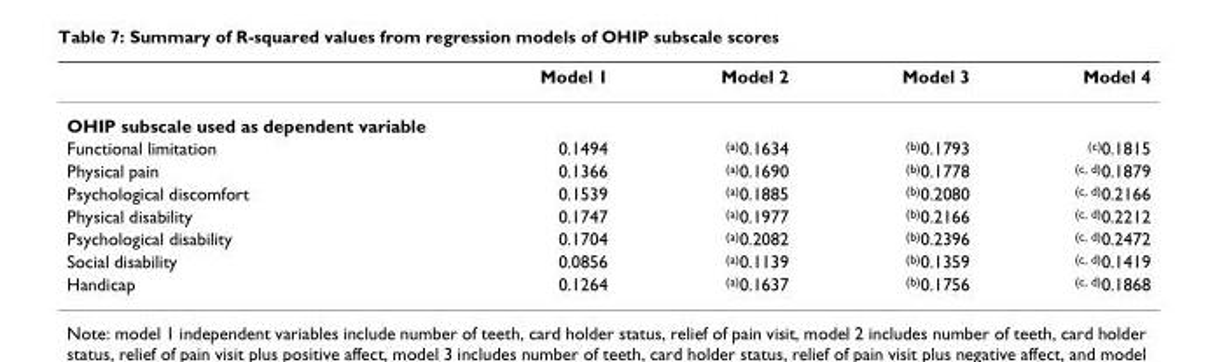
<table><thead><tr><td></td><td>Model 1</td><td>Model 2</td><td>Model 3</td><td>Model 4</td></tr></thead><tbody><tr><td colspan="5">OHIP subscale used as dependent variable</td></tr><tr><td>Functional limitation</td><td>0.1494</td><td><sup>(a)</sup>0.1634</td><td><sup>(b)</sup>0.1793</td><td><sup>(c)</sup>0.1815</td></tr><tr><td>Physical pain</td><td>0.1366</td><td><sup>(a)</sup>0.1690</td><td><sup>(b)</sup>0.1778</td><td><sup>(c, d)</sup>0.1879</td></tr><tr><td>Psychological discomfort</td><td>0.1539</td><td><sup>(a)</sup>0.1885</td><td><sup>(b)</sup>0.2080</td><td><sup>(c, d)</sup>0.2166</td></tr><tr><td>Physical disability</td><td>0.1747</td><td><sup>(a)</sup>0.1977</td><td><sup>(b)</sup>0.2166</td><td><sup>(c, d)</sup>0.2212</td></tr><tr><td>Psychological disability</td><td>0.1704</td><td><sup>(a)</sup>0.2082</td><td><sup>(b)</sup>0.2396</td><td><sup>(c, d)</sup>0.2472</td></tr><tr><td>Social disability</td><td>0.0856</td><td><sup>(a)</sup>0.1139</td><td><sup>(b)</sup>0.1359</td><td><sup>(c, d)</sup>0.1419</td></tr><tr><td>Handicap</td><td>0.1264</td><td><sup>(a)</sup>0.1637</td><td><sup>(b)</sup>0.1756</td><td><sup>(c, d)</sup>0.1868</td></tr></tbody></table>